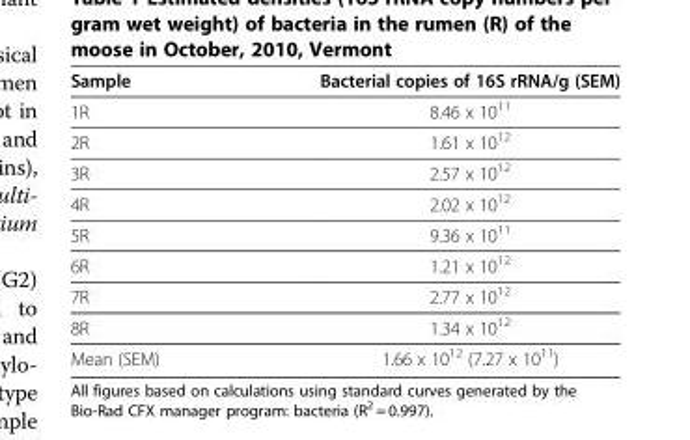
<table><thead><tr><td>Sample</td><td>Bacterial copies of 16S rRNA/g (SEM)</td></tr></thead><tbody><tr><td>1R</td><td>8.46 x 10<sup>11</sup></td></tr><tr><td>2R</td><td>1.61 x 10<sup>12</sup></td></tr><tr><td>3R</td><td>2.57 x 10<sup>12</sup></td></tr><tr><td>4R</td><td>2.02 x 10<sup>12</sup></td></tr><tr><td>5R</td><td>9.36 x 10<sup>11</sup></td></tr><tr><td>6R</td><td>1.21 x 10<sup>12</sup></td></tr><tr><td>7R</td><td>2.77 x 10<sup>12</sup></td></tr><tr><td>8R</td><td>1.34 x 10<sup>12</sup></td></tr><tr><td>Mean (SEM)</td><td>1.66 x 10<sup>12</sup> (7.27 x 10<sup>11</sup>)</td></tr></tbody></table>